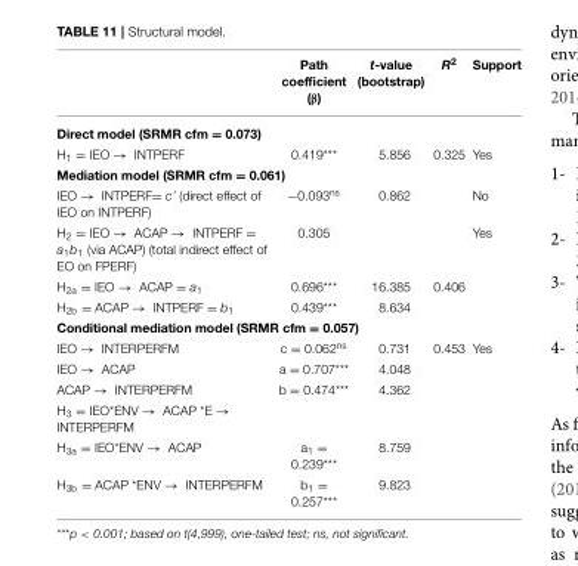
<table><thead><tr><td></td><td>Path coefficient (β)</td><td>t-value (bootstrap)</td><td>R<sup>2</sup></td><td>Support</td></tr></thead><tbody><tr><td colspan="5">Direct model (SRMR cfm = 0.073)</td></tr><tr><td>H<sub>1</sub> = IEO → INTPERF</td><td>0.419***</td><td>5.856</td><td>0.325</td><td>Yes</td></tr><tr><td colspan="5">Mediation model (SRMR cfm = 0.061)</td></tr><tr><td>IEO → INTPERF= c’ (direct effect of IEO on INTPERF)</td><td>−0.093<sup>ns</sup></td><td>0.862</td><td></td><td>No</td></tr><tr><td>H<sub>2</sub> = IEO → ACAP → INTPERF = a<sub>1</sub>b<sub>1</sub> (via ACAP) (total indirect effect of EO on FPERF)</td><td>0.305</td><td></td><td></td><td>Yes</td></tr><tr><td>H<sub>2a</sub> = IEO → ACAP = a<sub>1</sub></td><td>0.696***</td><td>16.385</td><td>0.406</td><td></td></tr><tr><td>H<sub>2b</sub> = ACAP → INTPERF = b<sub>1</sub></td><td>0.439***</td><td>8.634</td><td></td><td></td></tr><tr><td colspan="5">Conditional mediation model (SRMR cfm = 0.057)</td></tr><tr><td>IEO → INTERPERFM</td><td>c = 0.062<sup>ns</sup></td><td>0.731</td><td>0.453</td><td>Yes</td></tr><tr><td>IEO → ACAP</td><td>a = 0.707***</td><td>4.048</td><td></td><td></td></tr><tr><td>ACAP → INTERPERFM</td><td>b = 0.474***</td><td>4.362</td><td></td><td></td></tr><tr><td colspan="5">H<sub>3</sub> = IEO*ENV → ACAP *E → INTERPERFM</td></tr><tr><td>H<sub>3a</sub> = IEO*ENV → ACAP</td><td>a<sub>1</sub> = 0.239***</td><td>8.759</td><td></td><td></td></tr><tr><td>H<sub>3b</sub> = ACAP *ENV → INTERPERFM</td><td>b<sub>1</sub> = 0.257***</td><td>9.823</td><td></td><td></td></tr></tbody></table>